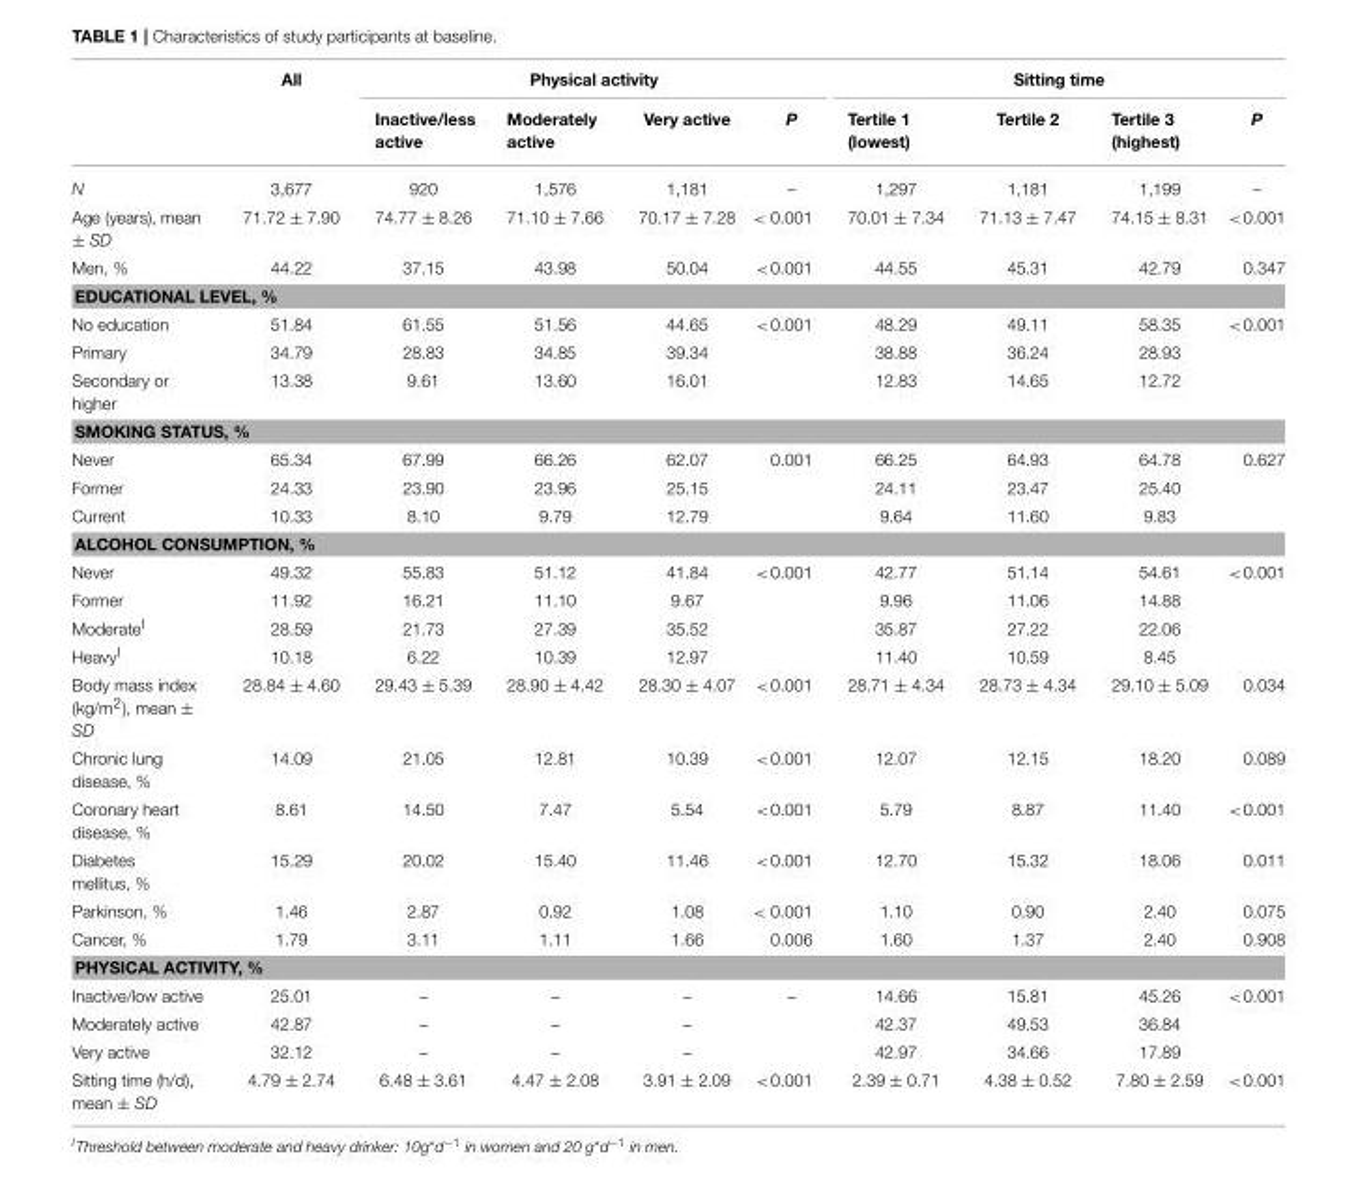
<table><thead><tr><td rowspan="2"></td><td rowspan="2">All</td><td colspan="4">Physical activity</td><td colspan="4">Sitting time</td></tr><tr><td>Inactive/less active</td><td>Moderately active</td><td>Very active</td><td>P</td><td>Tertile 1 (lowest)</td><td>Tertile 2</td><td>Tertile 3 (highest)</td><td>P</td></tr></thead><tbody><tr><td>N</td><td>3,677</td><td>920</td><td>1,576</td><td>1,181</td><td>–</td><td>1,297</td><td>1,181</td><td>1,199</td><td>–</td></tr><tr><td>Age (years), mean ± SD</td><td>71.72 ± 7.90</td><td>74.77 ± 8.26</td><td>71.10 ± 7.66</td><td>70.17 ± 7.28</td><td>&lt; 0.001</td><td>70.01 ± 7.34</td><td>71.13 ± 7.47</td><td>74.15 ± 8.31</td><td>&lt;0.001</td></tr><tr><td>Men, %</td><td>44.22</td><td>37.15</td><td>43.98</td><td>50.04</td><td>&lt;0.001</td><td>44.55</td><td>45.31</td><td>42.79</td><td>0.347</td></tr><tr><td colspan="10">EDUCATIONAL LEVEL, %</td></tr><tr><td>No education</td><td>51.84</td><td>61.55</td><td>51.56</td><td>44.65</td><td>&lt;0.001</td><td>48.29</td><td>49.11</td><td>58.35</td><td>&lt;0.001</td></tr><tr><td>Primary</td><td>34.79</td><td>28.83</td><td>34.85</td><td>39.34</td><td></td><td>38.88</td><td>36.24</td><td>28.93</td><td></td></tr><tr><td>Secondary or higher</td><td>13.38</td><td>9.61</td><td>13.60</td><td>16.01</td><td></td><td>12.83</td><td>14.65</td><td>12.72</td><td></td></tr><tr><td colspan="10">SMOKING STATUS, %</td></tr><tr><td>Never</td><td>65.34</td><td>67.99</td><td>66.26</td><td>62.07</td><td>0.001</td><td>66.25</td><td>64.93</td><td>64.78</td><td>0.627</td></tr><tr><td>Former</td><td>24.33</td><td>23.90</td><td>23.96</td><td>25.15</td><td></td><td>24.11</td><td>23.47</td><td>25.40</td><td></td></tr><tr><td>Current</td><td>10.33</td><td>8.10</td><td>9.79</td><td>12.79</td><td></td><td>9.64</td><td>11.60</td><td>9.83</td><td></td></tr><tr><td colspan="10">ALCOHOL CONSUMPTION, %</td></tr><tr><td>Never</td><td>49.32</td><td>55.83</td><td>51.12</td><td>41.84</td><td>&lt;0.001</td><td>42.77</td><td>51.14</td><td>54.61</td><td>&lt;0.001</td></tr><tr><td>Former</td><td>11.92</td><td>16.21</td><td>11.10</td><td>9.67</td><td></td><td>9.96</td><td>11.06</td><td>14.88</td><td></td></tr><tr><td>Moderate<sup>I</sup></td><td>28.59</td><td>21.73</td><td>27.39</td><td>35.52</td><td></td><td>35.87</td><td>27.22</td><td>22.06</td><td></td></tr><tr><td>Heavy<sup>I</sup></td><td>10.18</td><td>6.22</td><td>10.39</td><td>12.97</td><td></td><td>11.40</td><td>10.59</td><td>8.45</td><td></td></tr><tr><td>Body mass index (kg/m<sup>2</sup>), mean ± SD</td><td>28.84 ± 4.60</td><td>29.43 ± 5.39</td><td>28.90 ± 4.42</td><td>28.30 ± 4.07</td><td>&lt;0.001</td><td>28.71 ± 4.34</td><td>28.73 ± 4.34</td><td>29.10 ± 5.09</td><td>0.034</td></tr><tr><td>Chronic lung disease, %</td><td>14.09</td><td>21.05</td><td>12.81</td><td>10.39</td><td>&lt;0.001</td><td>12.07</td><td>12.15</td><td>18.20</td><td>0.089</td></tr><tr><td>Coronary heart disease, %</td><td>8.61</td><td>14.50</td><td>7.47</td><td>5.54</td><td>&lt;0.001</td><td>5.79</td><td>8.87</td><td>11.40</td><td>&lt;0.001</td></tr><tr><td>Diabetes mellitus, %</td><td>15.29</td><td>20.02</td><td>15.40</td><td>11.46</td><td>&lt;0.001</td><td>12.70</td><td>15.32</td><td>18.06</td><td>0.011</td></tr><tr><td>Parkinson, %</td><td>1.46</td><td>2.87</td><td>0.92</td><td>1.08</td><td>&lt; 0.001</td><td>1.10</td><td>0.90</td><td>2.40</td><td>0.075</td></tr><tr><td>Cancer, %</td><td>1.79</td><td>3.11</td><td>1.11</td><td>1.66</td><td>0.006</td><td>1.60</td><td>1.37</td><td>2.40</td><td>0.908</td></tr><tr><td colspan="10">PHYSICAL ACTIVITY, %</td></tr><tr><td>Inactive/low active</td><td>25.01</td><td>–</td><td>–</td><td>–</td><td>–</td><td>14.66</td><td>15.81</td><td>45.26</td><td>&lt;0.001</td></tr><tr><td>Moderately active</td><td>42.87</td><td>–</td><td>–</td><td>–</td><td></td><td>42.37</td><td>49.53</td><td>36.84</td><td></td></tr><tr><td>Very active</td><td>32.12</td><td>–</td><td>–</td><td>–</td><td></td><td>42.97</td><td>34.66</td><td>17.89</td><td></td></tr><tr><td>Sitting time (h/d), mean ± SD</td><td>4.79 ± 2.74</td><td>6.48 ± 3.61</td><td>4.47 ± 2.08</td><td>3.91 ± 2.09</td><td>&lt;0.001</td><td>2.39 ± 0.71</td><td>4.38 ± 0.52</td><td>7.80 ± 2.59</td><td>&lt;0.001</td></tr></tbody></table>